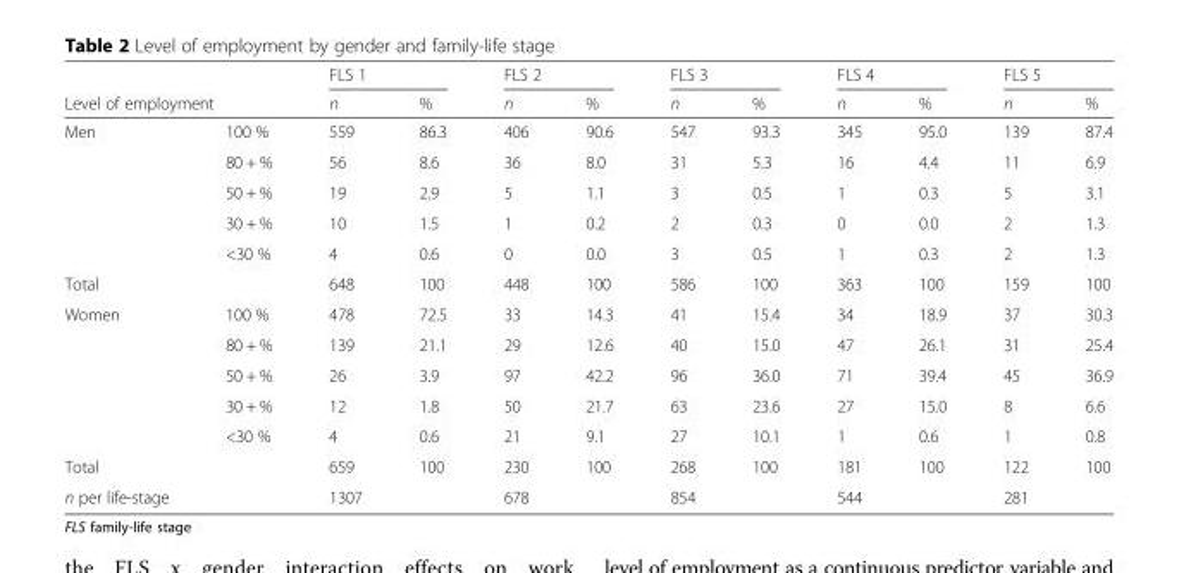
<table><thead><tr><td></td><td></td><td colspan="2">FLS 1</td><td colspan="2">FLS 2</td><td colspan="2">FLS 3</td><td colspan="2">FLS 4</td><td colspan="2">FLS 5</td></tr><tr><td colspan="2">Level of employment</td><td>n</td><td>%</td><td>n</td><td>%</td><td>n</td><td>%</td><td>n</td><td>%</td><td>n</td><td>%</td></tr></thead><tbody><tr><td rowspan="5">Men</td><td>100 %</td><td>559</td><td>86.3</td><td>406</td><td>90.6</td><td>547</td><td>93.3</td><td>345</td><td>95.0</td><td>139</td><td>87.4</td></tr><tr><td>80 + %</td><td>56</td><td>8.6</td><td>36</td><td>8.0</td><td>31</td><td>5.3</td><td>16</td><td>4.4</td><td>11</td><td>6.9</td></tr><tr><td>50 + %</td><td>19</td><td>2.9</td><td>5</td><td>1.1</td><td>3</td><td>0.5</td><td>1</td><td>0.3</td><td>5</td><td>3.1</td></tr><tr><td>30 + %</td><td>10</td><td>1.5</td><td>1</td><td>0.2</td><td>2</td><td>0.3</td><td>0</td><td>0.0</td><td>2</td><td>1.3</td></tr><tr><td>&lt;30 %</td><td>4</td><td>0.6</td><td>0</td><td>0.0</td><td>3</td><td>0.5</td><td>1</td><td>0.3</td><td>2</td><td>1.3</td></tr><tr><td>Total</td><td></td><td>648</td><td>100</td><td>448</td><td>100</td><td>586</td><td>100</td><td>363</td><td>100</td><td>159</td><td>100</td></tr><tr><td rowspan="5">Women</td><td>100 %</td><td>478</td><td>72.5</td><td>33</td><td>14.3</td><td>41</td><td>15.4</td><td>34</td><td>18.9</td><td>37</td><td>30.3</td></tr><tr><td>80 + %</td><td>139</td><td>21.1</td><td>29</td><td>12.6</td><td>40</td><td>15.0</td><td>47</td><td>26.1</td><td>31</td><td>25.4</td></tr><tr><td>50 + %</td><td>26</td><td>3.9</td><td>97</td><td>42.2</td><td>96</td><td>36.0</td><td>71</td><td>39.4</td><td>45</td><td>36.9</td></tr><tr><td>30 + %</td><td>12</td><td>1.8</td><td>50</td><td>21.7</td><td>63</td><td>23.6</td><td>27</td><td>15.0</td><td>8</td><td>6.6</td></tr><tr><td>&lt;30 %</td><td>4</td><td>0.6</td><td>21</td><td>9.1</td><td>27</td><td>10.1</td><td>1</td><td>0.6</td><td>1</td><td>0.8</td></tr><tr><td>Total</td><td></td><td>659</td><td>100</td><td>230</td><td>100</td><td>268</td><td>100</td><td>181</td><td>100</td><td>122</td><td>100</td></tr><tr><td>n per life-stage</td><td></td><td>1307</td><td></td><td>678</td><td></td><td>854</td><td></td><td>544</td><td></td><td>281</td><td></td></tr></tbody></table>